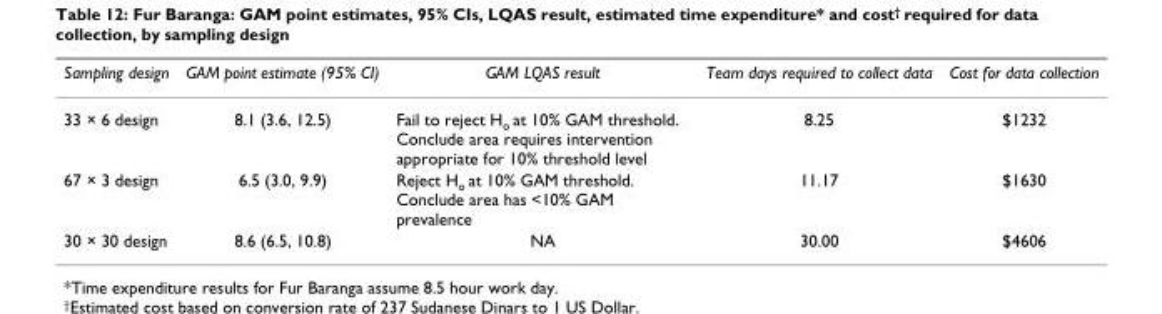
<table><thead><tr><td>Sampling design</td><td>GAM point estimate (95% CI)</td><td>GAM LQAS result</td><td>Team days required to collect data</td><td>Cost for data collection</td></tr></thead><tbody><tr><td>33 × 6 design</td><td>8.1 (3.6, 12.5)</td><td>Fail to reject H<sub>o</sub> at 10% GAM threshold. Conclude area requires intervention appropriate for 10% threshold level</td><td>8.25</td><td>$1232</td></tr><tr><td>67 × 3 design</td><td>6.5 (3.0, 9.9)</td><td>Reject H<sub>o</sub> at 10% GAM threshold. Conclude area has &lt;10% GAM prevalence</td><td>11.17</td><td>$1630</td></tr><tr><td>30 × 30 design</td><td>8.6 (6.5, 10.8)</td><td>NA</td><td>30.00</td><td>$4606</td></tr></tbody></table>